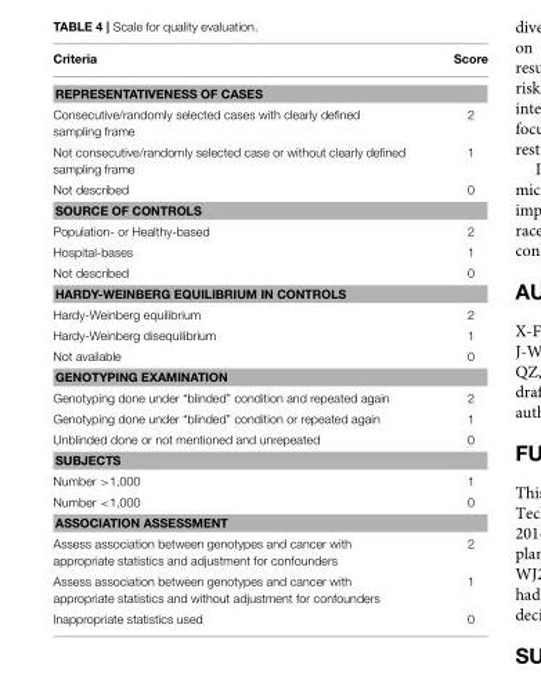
<table><thead><tr><td>Criteria</td><td>Score</td></tr></thead><tbody><tr><td colspan="2">REPRESENTATIVENESS OF CASES</td></tr><tr><td>Consecutive/randomly selected cases with clearly defined sampling frame</td><td>2</td></tr><tr><td>Not consecutive/randomly selected case or without clearly defined sampling frame</td><td>1</td></tr><tr><td>Not described</td><td>0</td></tr><tr><td colspan="2">SOURCE OF CONTROLS</td></tr><tr><td>Population- or Healthy-based</td><td>2</td></tr><tr><td>Hospital-bases</td><td>1</td></tr><tr><td>Not described</td><td>0</td></tr><tr><td colspan="2">HARDY-WEINBERG EQUILIBRIUM IN CONTROLS</td></tr><tr><td>Hardy-Weinberg equilibrium</td><td>2</td></tr><tr><td>Hardy-Weinberg disequilibrium</td><td>1</td></tr><tr><td>Not available</td><td>0</td></tr><tr><td colspan="2">GENOTYPING EXAMINATION</td></tr><tr><td>Genotyping done under “blinded” condition and repeated again</td><td>2</td></tr><tr><td>Genotyping done under “blinded” condition or repeated again</td><td>1</td></tr><tr><td>Unblinded done or not mentioned and unrepeated</td><td>0</td></tr><tr><td colspan="2">SUBJECTS</td></tr><tr><td>Number &gt;1,000</td><td>1</td></tr><tr><td>Number &lt;1,000</td><td>0</td></tr><tr><td colspan="2">ASSOCIATION ASSESSMENT</td></tr><tr><td>Assess association between genotypes and cancer with appropriate statistics and adjustment for confounders</td><td>2</td></tr><tr><td>Assess association between genotypes and cancer with appropriate statistics and without adjustment for confounders</td><td>1</td></tr><tr><td>Inappropriate statistics used</td><td>0</td></tr></tbody></table>